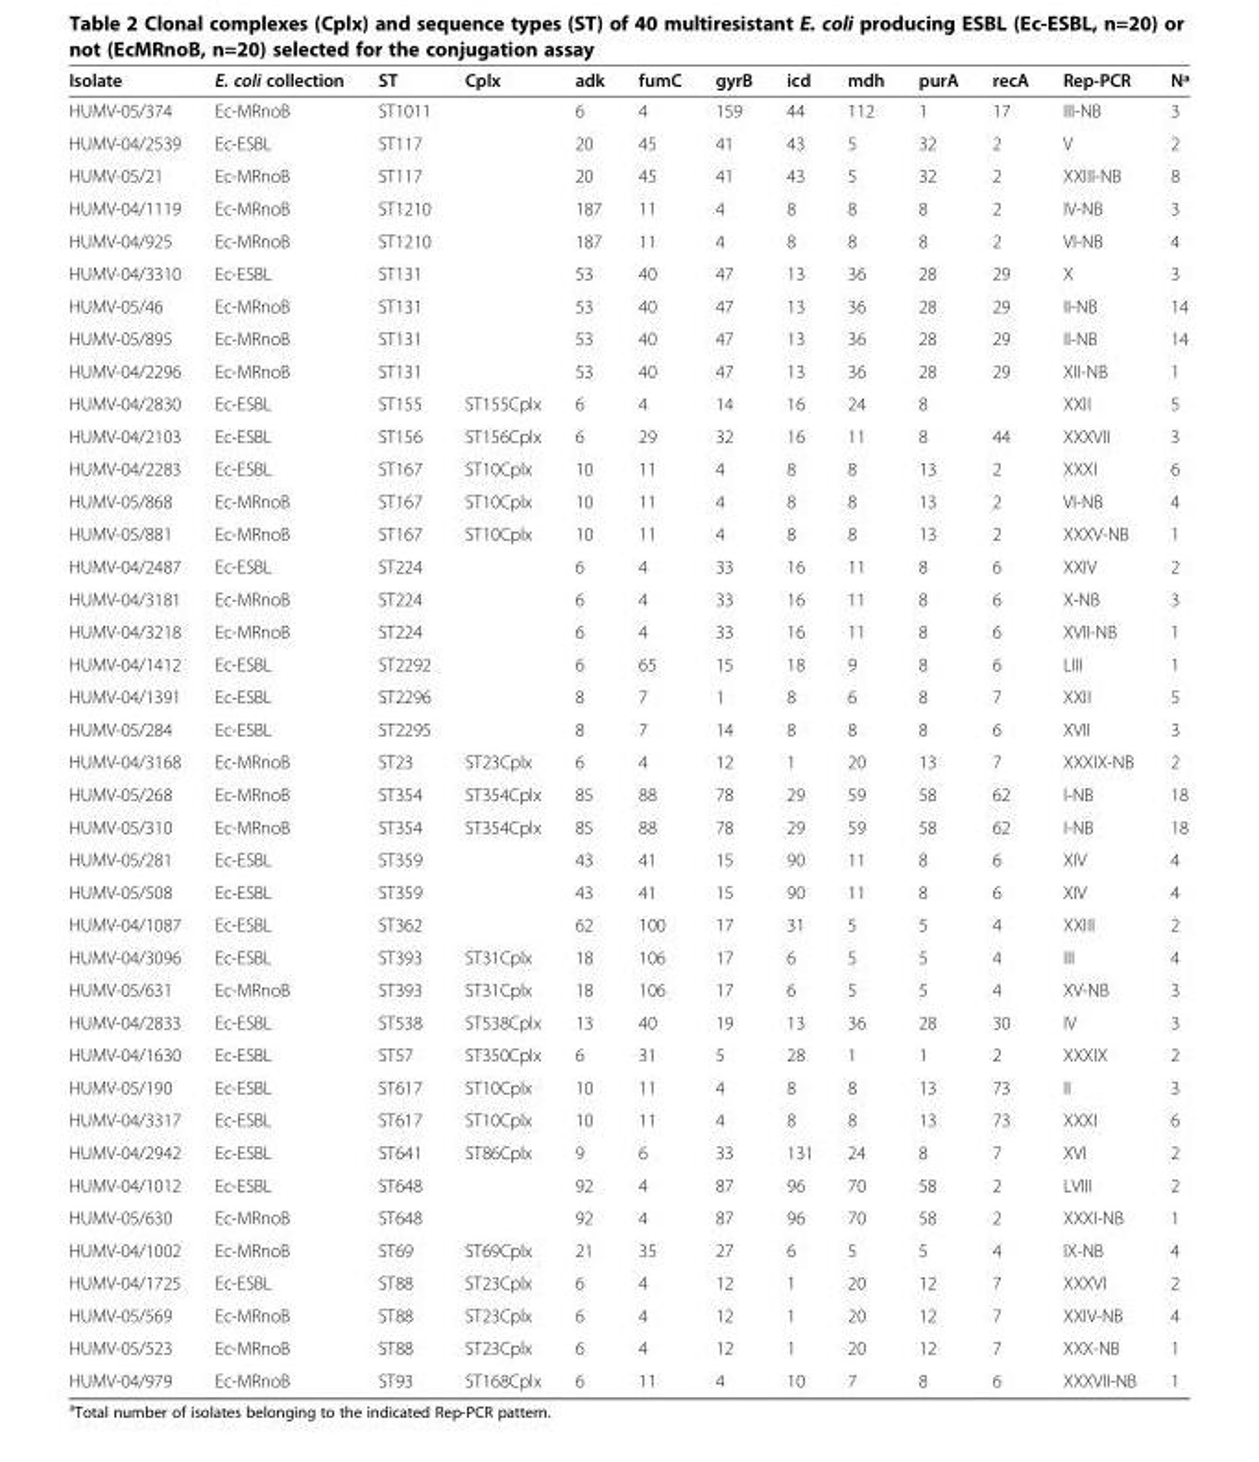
<table><thead><tr><td>Isolate</td><td>E. coli collection</td><td>ST</td><td>Cplx</td><td>adk</td><td>fumC</td><td>gyrB</td><td>icd</td><td>mdh</td><td>purA</td><td>recA</td><td>Rep-PCR</td><td>Nª</td></tr></thead><tbody><tr><td>HUMV-05/374</td><td>Ec-MRnoB</td><td>ST1011</td><td></td><td>6</td><td>4</td><td>159</td><td>44</td><td>112</td><td>1</td><td>17</td><td>III-NB</td><td>3</td></tr><tr><td>HUMV-04/2539</td><td>Ec-ESBL</td><td>ST117</td><td></td><td>20</td><td>45</td><td>41</td><td>43</td><td>5</td><td>32</td><td>2</td><td>V</td><td>2</td></tr><tr><td>HUMV-05/21</td><td>Ec-MRnoB</td><td>ST117</td><td></td><td>20</td><td>45</td><td>41</td><td>43</td><td>5</td><td>32</td><td>2</td><td>XXIII-NB</td><td>8</td></tr><tr><td>HUMV-04/1119</td><td>Ec-MRnoB</td><td>ST1210</td><td></td><td>187</td><td>11</td><td>4</td><td>8</td><td>8</td><td>8</td><td>2</td><td>IV-NB</td><td>3</td></tr><tr><td>HUMV-04/925</td><td>Ec-MRnoB</td><td>ST1210</td><td></td><td>187</td><td>11</td><td>4</td><td>8</td><td>8</td><td>8</td><td>2</td><td>VI-NB</td><td>4</td></tr><tr><td>HUMV-04/3310</td><td>Ec-ESBL</td><td>ST131</td><td></td><td>53</td><td>40</td><td>47</td><td>13</td><td>36</td><td>28</td><td>29</td><td>X</td><td>3</td></tr><tr><td>HUMV-05/46</td><td>Ec-MRnoB</td><td>ST131</td><td></td><td>53</td><td>40</td><td>47</td><td>13</td><td>36</td><td>28</td><td>29</td><td>II-NB</td><td>14</td></tr><tr><td>HUMV-05/895</td><td>Ec-MRnoB</td><td>ST131</td><td></td><td>53</td><td>40</td><td>47</td><td>13</td><td>36</td><td>28</td><td>29</td><td>II-NB</td><td>14</td></tr><tr><td>HUMV-04/2296</td><td>Ec-MRnoB</td><td>ST131</td><td></td><td>53</td><td>40</td><td>47</td><td>13</td><td>36</td><td>28</td><td>29</td><td>XII-NB</td><td>1</td></tr><tr><td>HUMV-04/2830</td><td>Ec-ESBL</td><td>ST155</td><td>ST155Cplx</td><td>6</td><td>4</td><td>14</td><td>16</td><td>24</td><td>8</td><td></td><td>XXII</td><td>5</td></tr><tr><td>HUMV-04/2103</td><td>Ec-ESBL</td><td>ST156</td><td>ST156Cplx</td><td>6</td><td>29</td><td>32</td><td>16</td><td>11</td><td>8</td><td>44</td><td>XXXVII</td><td>3</td></tr><tr><td>HUMV-04/2283</td><td>Ec-ESBL</td><td>ST167</td><td>ST10Cplx</td><td>10</td><td>11</td><td>4</td><td>8</td><td>8</td><td>13</td><td>2</td><td>XXXI</td><td>6</td></tr><tr><td>HUMV-05/868</td><td>Ec-MRnoB</td><td>ST167</td><td>ST10Cplx</td><td>10</td><td>11</td><td>4</td><td>8</td><td>8</td><td>13</td><td>2</td><td>VI-NB</td><td>4</td></tr><tr><td>HUMV-05/881</td><td>Ec-MRnoB</td><td>ST167</td><td>ST10Cplx</td><td>10</td><td>11</td><td>4</td><td>8</td><td>8</td><td>13</td><td>2</td><td>XXXV-NB</td><td>1</td></tr><tr><td>HUMV-04/2487</td><td>Ec-ESBL</td><td>ST224</td><td></td><td>6</td><td>4</td><td>33</td><td>16</td><td>11</td><td>8</td><td>6</td><td>XXIV</td><td>2</td></tr><tr><td>HUMV-04/3181</td><td>Ec-MRnoB</td><td>ST224</td><td></td><td>6</td><td>4</td><td>33</td><td>16</td><td>11</td><td>8</td><td>6</td><td>X-NB</td><td>3</td></tr><tr><td>HUMV-04/3218</td><td>Ec-MRnoB</td><td>ST224</td><td></td><td>6</td><td>4</td><td>33</td><td>16</td><td>11</td><td>8</td><td>6</td><td>XVII-NB</td><td>1</td></tr><tr><td>HUMV-04/1412</td><td>Ec-ESBL</td><td>ST2292</td><td></td><td>6</td><td>65</td><td>15</td><td>18</td><td>9</td><td>8</td><td>6</td><td>LIII</td><td>1</td></tr><tr><td>HUMV-04/1391</td><td>Ec-ESBL</td><td>ST2296</td><td></td><td>8</td><td>7</td><td>1</td><td>8</td><td>6</td><td>8</td><td>7</td><td>XXII</td><td>5</td></tr><tr><td>HUMV-05/284</td><td>Ec-ESBL</td><td>ST2295</td><td></td><td>8</td><td>7</td><td>14</td><td>8</td><td>8</td><td>8</td><td>6</td><td>XVII</td><td>3</td></tr><tr><td>HUMV-04/3168</td><td>Ec-MRnoB</td><td>ST23</td><td>ST23Cplx</td><td>6</td><td>4</td><td>12</td><td>1</td><td>20</td><td>13</td><td>7</td><td>XXXIX-NB</td><td>2</td></tr><tr><td>HUMV-05/268</td><td>Ec-MRnoB</td><td>ST354</td><td>ST354Cplx</td><td>85</td><td>88</td><td>78</td><td>29</td><td>59</td><td>58</td><td>62</td><td>I-NB</td><td>18</td></tr><tr><td>HUMV-05/310</td><td>Ec-MRnoB</td><td>ST354</td><td>ST354Cplx</td><td>85</td><td>88</td><td>78</td><td>29</td><td>59</td><td>58</td><td>62</td><td>I-NB</td><td>18</td></tr><tr><td>HUMV-05/281</td><td>Ec-ESBL</td><td>ST359</td><td></td><td>43</td><td>41</td><td>15</td><td>90</td><td>11</td><td>8</td><td>6</td><td>XIV</td><td>4</td></tr><tr><td>HUMV-05/508</td><td>Ec-ESBL</td><td>ST359</td><td></td><td>43</td><td>41</td><td>15</td><td>90</td><td>11</td><td>8</td><td>6</td><td>XIV</td><td>4</td></tr><tr><td>HUMV-04/1087</td><td>Ec-ESBL</td><td>ST362</td><td></td><td>62</td><td>100</td><td>17</td><td>31</td><td>5</td><td>5</td><td>4</td><td>XXIII</td><td>2</td></tr><tr><td>HUMV-04/3096</td><td>Ec-ESBL</td><td>ST393</td><td>ST31Cplx</td><td>18</td><td>106</td><td>17</td><td>6</td><td>5</td><td>5</td><td>4</td><td>III</td><td>4</td></tr><tr><td>HUMV-05/631</td><td>Ec-MRnoB</td><td>ST393</td><td>ST31Cplx</td><td>18</td><td>106</td><td>17</td><td>6</td><td>5</td><td>5</td><td>4</td><td>XV-NB</td><td>3</td></tr><tr><td>HUMV-04/2833</td><td>Ec-ESBL</td><td>ST538</td><td>ST538Cplx</td><td>13</td><td>40</td><td>19</td><td>13</td><td>36</td><td>28</td><td>30</td><td>IV</td><td>3</td></tr><tr><td>HUMV-04/1630</td><td>Ec-ESBL</td><td>ST57</td><td>ST350Cplx</td><td>6</td><td>31</td><td>5</td><td>28</td><td>1</td><td>1</td><td>2</td><td>XXXIX</td><td>2</td></tr><tr><td>HUMV-05/190</td><td>Ec-ESBL</td><td>ST617</td><td>ST10Cplx</td><td>10</td><td>11</td><td>4</td><td>8</td><td>8</td><td>13</td><td>73</td><td>II</td><td>3</td></tr><tr><td>HUMV-04/3317</td><td>Ec-ESBL</td><td>ST617</td><td>ST10Cplx</td><td>10</td><td>11</td><td>4</td><td>8</td><td>8</td><td>13</td><td>73</td><td>XXXI</td><td>6</td></tr><tr><td>HUMV-04/2942</td><td>Ec-ESBL</td><td>ST641</td><td>ST86Cplx</td><td>9</td><td>6</td><td>33</td><td>131</td><td>24</td><td>8</td><td>7</td><td>XVI</td><td>2</td></tr><tr><td>HUMV-04/1012</td><td>Ec-ESBL</td><td>ST648</td><td></td><td>92</td><td>4</td><td>87</td><td>96</td><td>70</td><td>58</td><td>2</td><td>LVIII</td><td>2</td></tr><tr><td>HUMV-05/630</td><td>Ec-MRnoB</td><td>ST648</td><td></td><td>92</td><td>4</td><td>87</td><td>96</td><td>70</td><td>58</td><td>2</td><td>XXXI-NB</td><td>1</td></tr><tr><td>HUMV-04/1002</td><td>Ec-MRnoB</td><td>ST69</td><td>ST69Cplx</td><td>21</td><td>35</td><td>27</td><td>6</td><td>5</td><td>5</td><td>4</td><td>IX-NB</td><td>4</td></tr><tr><td>HUMV-04/1725</td><td>Ec-ESBL</td><td>ST88</td><td>ST23Cplx</td><td>6</td><td>4</td><td>12</td><td>1</td><td>20</td><td>12</td><td>7</td><td>XXXVI</td><td>2</td></tr><tr><td>HUMV-05/569</td><td>Ec-MRnoB</td><td>ST88</td><td>ST23Cplx</td><td>6</td><td>4</td><td>12</td><td>1</td><td>20</td><td>12</td><td>7</td><td>XXIV-NB</td><td>4</td></tr><tr><td>HUMV-05/523</td><td>Ec-MRnoB</td><td>ST88</td><td>ST23Cplx</td><td>6</td><td>4</td><td>12</td><td>1</td><td>20</td><td>12</td><td>7</td><td>XXX-NB</td><td>1</td></tr><tr><td>HUMV-04/979</td><td>Ec-MRnoB</td><td>ST93</td><td>ST168Cplx</td><td>6</td><td>11</td><td>4</td><td>10</td><td>7</td><td>8</td><td>6</td><td>XXXVII-NB</td><td>1</td></tr></tbody></table>